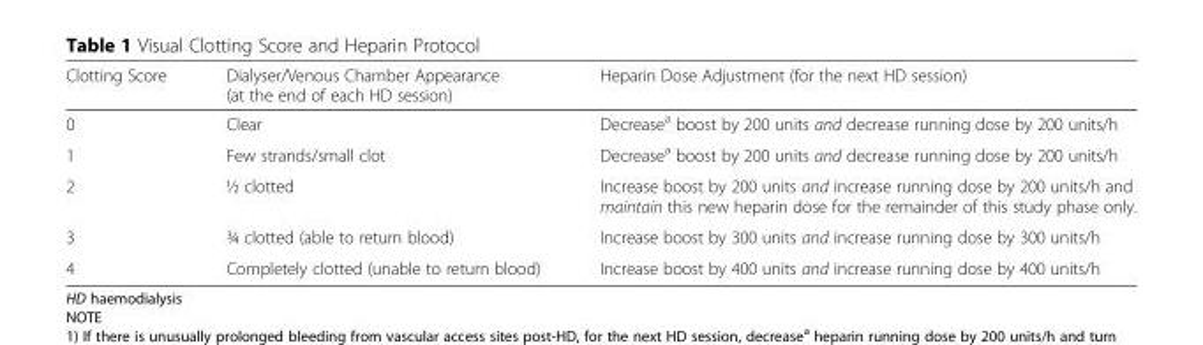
<table><thead><tr><td>Clotting Score</td><td>Dialyser/Venous Chamber Appearance (at the end of each HD session)</td><td>Heparin Dose Adjustment (for the next HD session)</td></tr></thead><tbody><tr><td>0</td><td>Clear</td><td>Decrease<sup>a</sup> boost by 200 units and decrease running dose by 200 units/h</td></tr><tr><td>1</td><td>Few strands/small clot</td><td>Decrease<sup>a</sup> boost by 200 units and decrease running dose by 200 units/h</td></tr><tr><td>2</td><td>½ clotted</td><td>Increase boost by 200 units and increase running dose by 200 units/h and maintain this new heparin dose for the remainder of this study phase only.</td></tr><tr><td>3</td><td>¾ clotted (able to return blood)</td><td>Increase boost by 300 units and increase running dose by 300 units/h</td></tr><tr><td>4</td><td>Completely clotted (unable to return blood)</td><td>Increase boost by 400 units and increase running dose by 400 units/h</td></tr></tbody></table>